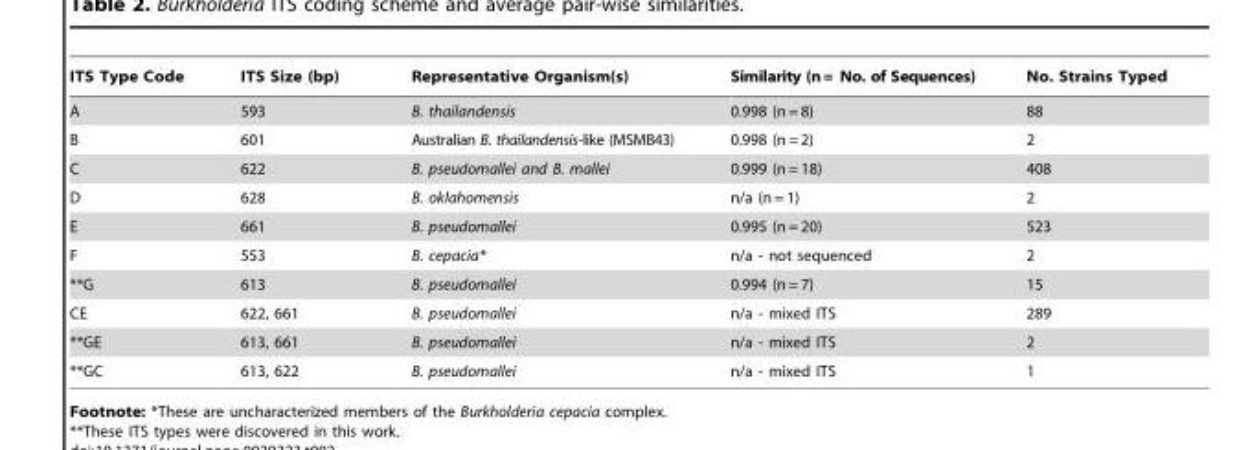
<table><thead><tr><td>ITS Type Code</td><td>ITS Size (bp)</td><td>Representative Organism(s)</td><td>Similarity (n= No. of Sequences)</td><td>No. Strains Typed</td></tr></thead><tbody><tr><td>A</td><td>593</td><td>B. thailandensis</td><td>0.998 (n = 8)</td><td>88</td></tr><tr><td>B</td><td>601</td><td>Australian B. thailandensis-like (MSMB43)</td><td>0.998 (n = 2)</td><td>2</td></tr><tr><td>C</td><td>622</td><td>B. pseudomallei and B. mallei</td><td>0.999 (n = 18)</td><td>408</td></tr><tr><td>D</td><td>628</td><td>B. oklahomensis</td><td>n/a (n = 1)</td><td>2</td></tr><tr><td>E</td><td>661</td><td>B. pseudomallei</td><td>0.995 (n = 20)</td><td>523</td></tr><tr><td>F</td><td>553</td><td>B. cepacia*</td><td>n/a - not sequenced</td><td>2</td></tr><tr><td>**G</td><td>613</td><td>B. pseudomallei</td><td>0.994 (n = 7)</td><td>15</td></tr><tr><td>CE</td><td>622, 661</td><td>B. pseudomallei</td><td>n/a - mixed ITS</td><td>289</td></tr><tr><td>**GE</td><td>613, 661</td><td>B. pseudomallei</td><td>n/a - mixed ITS</td><td>2</td></tr><tr><td>**GC</td><td>613, 622</td><td>B. pseudomallei</td><td>n/a - mixed ITS</td><td>1</td></tr></tbody></table>